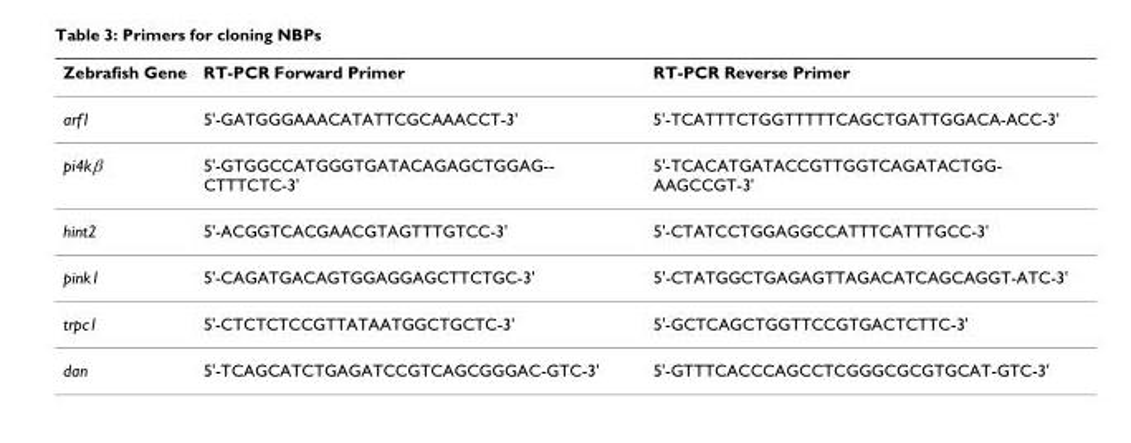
<table><thead><tr><td>Zebrafish Gene</td><td>RT-PCR Forward Primer</td><td>RT-PCR Reverse Primer</td></tr></thead><tbody><tr><td>arf1</td><td>5&#x27;-GATGGGAAACATATTCGCAAACCT-3&#x27;</td><td>5&#x27;-TCATTTCTGGTTTTTCAGCTGATTGGACA-ACC-3&#x27;</td></tr><tr><td>pi4kβ</td><td>5&#x27;-GTGGCCATGGGTGATACAGAGCTGGAG-- CTTTCTC-3&#x27;</td><td>5&#x27;-TCACATGATACCGTTGGTCAGATACTGG- AAGCCGT-3&#x27;</td></tr><tr><td>hint2</td><td>5&#x27;-ACGGTCACGAACGTAGTTTGTCC-3&#x27;</td><td>5&#x27;-CTATCCTGGAGGCCATTTCATTTGCC-3&#x27;</td></tr><tr><td>pink1</td><td>5&#x27;-CAGATGACAGTGGAGGAGCTTCTGC-3&#x27;</td><td>5&#x27;-CTATGGCTGAGAGTTAGACATCAGCAGGT-ATC-3&#x27;</td></tr><tr><td>trpc1</td><td>5&#x27;-CTCTCTCCGTTATAATGGCTGCTC-3&#x27;</td><td>5&#x27;-GCTCAGCTGGTTCCGTGACTCTTC-3&#x27;</td></tr><tr><td>dan</td><td>5&#x27;-TCAGCATCTGAGATCCGTCAGCGGGAC-GTC-3&#x27;</td><td>5&#x27;-GTTTCACCCAGCCTCGGGCGCGTGCAT-GTC-3&#x27;</td></tr></tbody></table>